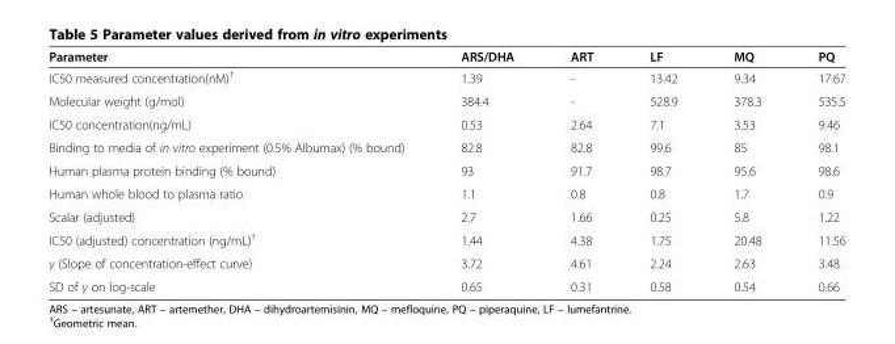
<table><thead><tr><td>Parameter</td><td>ARS/DHA</td><td>ART</td><td>LF</td><td>MQ</td><td>PQ</td></tr></thead><tbody><tr><td>IC50 measured concentration(nM)<sup>†</sup></td><td>1.39</td><td>-</td><td>13.42</td><td>9.34</td><td>17.67</td></tr><tr><td>Molecular weight (g/mol)</td><td>384.4</td><td>-</td><td>528.9</td><td>378.3</td><td>535.5</td></tr><tr><td>IC50 concentration(ng/mL)</td><td>0.53</td><td>2.64</td><td>7.1</td><td>3.53</td><td>9.46</td></tr><tr><td>Binding to media of in vitro experiment (0.5% Albumax) (% bound)</td><td>82.8</td><td>82.8</td><td>99.6</td><td>85</td><td>98.1</td></tr><tr><td>Human plasma protein binding (% bound)</td><td>93</td><td>91.7</td><td>98.7</td><td>95.6</td><td>98.6</td></tr><tr><td>Human whole blood to plasma ratio</td><td>1.1</td><td>0.8</td><td>0.8</td><td>1.7</td><td>0.9</td></tr><tr><td>Scalar (adjusted)</td><td>2.7</td><td>1.66</td><td>0.25</td><td>5.8</td><td>1.22</td></tr><tr><td>IC50 (adjusted) concentration (ng/mL)<sup>†</sup></td><td>1.44</td><td>4.38</td><td>1.75</td><td>20.48</td><td>11.56</td></tr><tr><td>γ (Slope of concentration-effect curve)</td><td>3.72</td><td>4.61</td><td>2.24</td><td>2.63</td><td>3.48</td></tr><tr><td>SD of γ on log-scale</td><td>0.65</td><td>0.31</td><td>0.58</td><td>0.54</td><td>0.66</td></tr></tbody></table>